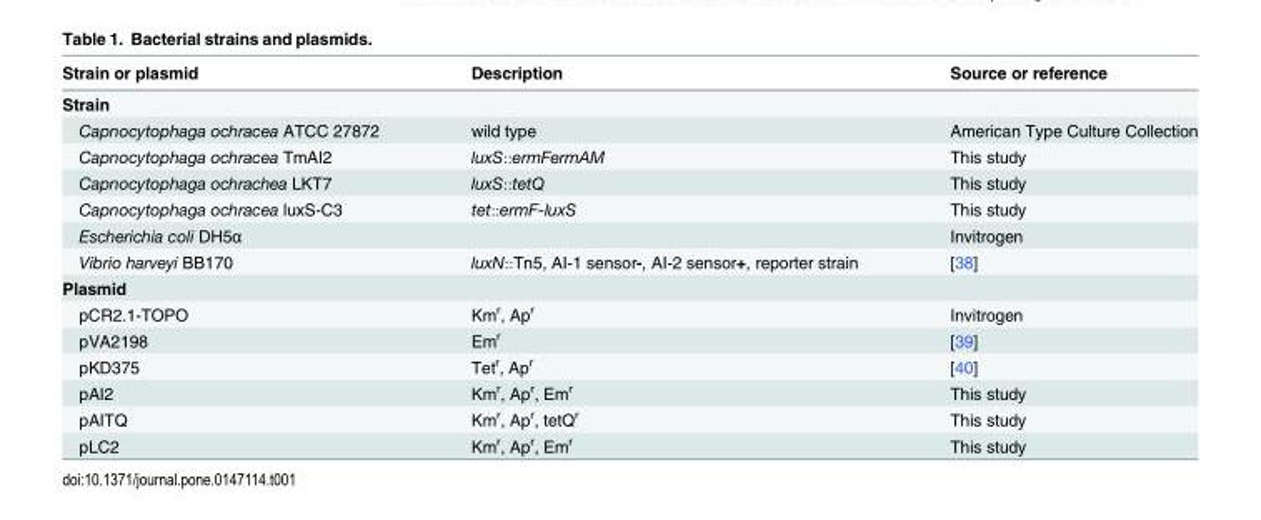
<table><thead><tr><td>Strain or plasmid</td><td>Description</td><td>Source or reference</td></tr></thead><tbody><tr><td colspan="3">Strain</td></tr><tr><td>Capnocytophaga ochracea ATCC 27872</td><td>wild type</td><td>American Type Culture Collection</td></tr><tr><td>Capnocytophaga ochracea TmAI2</td><td>luxS::ermFermAM</td><td>This study</td></tr><tr><td>Capnocytophaga ochrachea LKT7</td><td>luxS::tetQ</td><td>This study</td></tr><tr><td>Capnocytophaga ochracea luxS-C3</td><td>tet::ermF-luxS</td><td>This study</td></tr><tr><td>Escherichia coli DH5α</td><td></td><td>Invitrogen</td></tr><tr><td>Vibrio harveyi BB170</td><td>luxN::Tn5, AI-1 sensor-, AI-2 sensor+, reporter strain</td><td>[38]</td></tr><tr><td colspan="3">Plasmid</td></tr><tr><td>pCR2.1-TOPO</td><td>Km<sup>r</sup>, Ap<sup>r</sup></td><td>Invitrogen</td></tr><tr><td>pVA2198</td><td>Em<sup>r</sup></td><td>[39]</td></tr><tr><td>pKD375</td><td>Tet<sup>r</sup>, Ap<sup>r</sup></td><td>[40]</td></tr><tr><td>pAI2</td><td>Km<sup>r</sup>, Ap<sup>r</sup>, Em<sup>r</sup></td><td>This study</td></tr><tr><td>pAITQ</td><td>Km<sup>r</sup>, Ap<sup>r</sup>, tetQ<sup>r</sup></td><td>This study</td></tr><tr><td>pLC2</td><td>Km<sup>r</sup>, Ap<sup>r</sup>, Em<sup>r</sup></td><td>This study</td></tr></tbody></table>